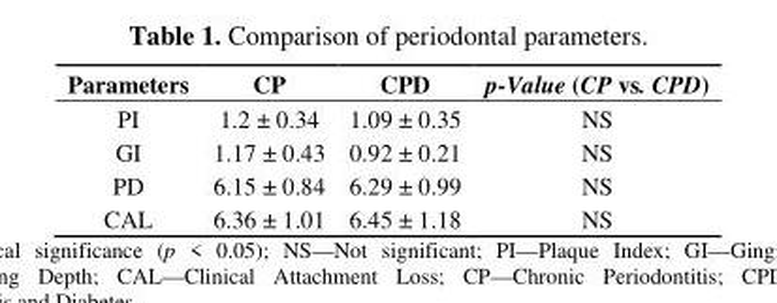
<table><thead><tr><td>Parameters</td><td>CP</td><td>CPD</td><td>p-Value (CP vs. CPD)</td></tr></thead><tbody><tr><td>PI</td><td>1.2 ± 0.34</td><td>1.09 ± 0.35</td><td>NS</td></tr><tr><td>GI</td><td>1.17 ± 0.43</td><td>0.92 ± 0.21</td><td>NS</td></tr><tr><td>PD</td><td>6.15 ± 0.84</td><td>6.29 ± 0.99</td><td>NS</td></tr><tr><td>CAL</td><td>6.36 ± 1.01</td><td>6.45 ± 1.18</td><td>NS</td></tr></tbody></table>